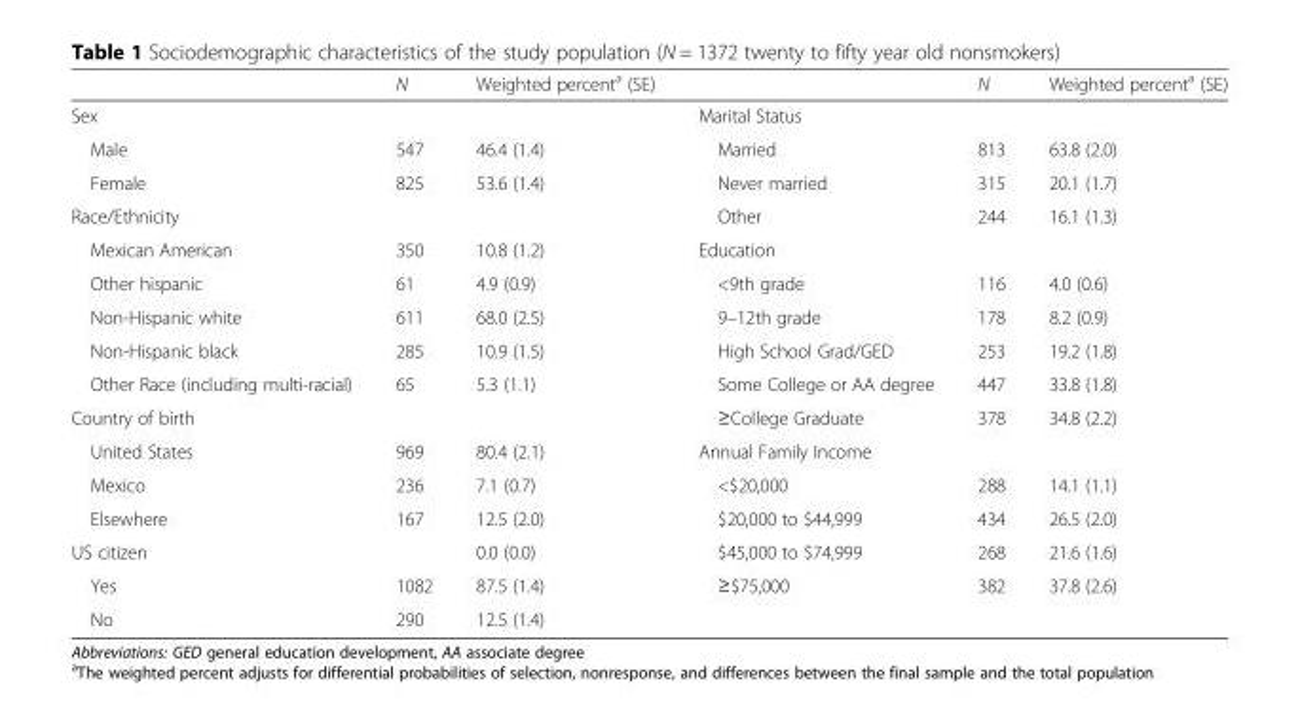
<table><thead><tr><td></td><td>N</td><td>Weighted percent<sup>a</sup> (SE)</td><td></td><td>N</td><td>Weighted percent<sup>a</sup> (SE)</td></tr></thead><tbody><tr><td>Sex</td><td></td><td></td><td>Marital Status</td><td></td><td></td></tr><tr><td>Male</td><td>547</td><td>46.4 (1.4)</td><td>Married</td><td>813</td><td>63.8 (2.0)</td></tr><tr><td>Female</td><td>825</td><td>53.6 (1.4)</td><td>Never married</td><td>315</td><td>20.1 (1.7)</td></tr><tr><td>Race/Ethnicity</td><td></td><td></td><td>Other</td><td>244</td><td>16.1 (1.3)</td></tr><tr><td>Mexican American</td><td>350</td><td>10.8 (1.2)</td><td>Education</td><td></td><td></td></tr><tr><td>Other hispanic</td><td>61</td><td>4.9 (0.9)</td><td>&lt;9th grade</td><td>116</td><td>4.0 (0.6)</td></tr><tr><td>Non-Hispanic white</td><td>611</td><td>68.0 (2.5)</td><td>9–12th grade</td><td>178</td><td>8.2 (0.9)</td></tr><tr><td>Non-Hispanic black</td><td>285</td><td>10.9 (1.5)</td><td>High School Grad/GED</td><td>253</td><td>19.2 (1.8)</td></tr><tr><td>Other Race (including multi-racial)</td><td>65</td><td>5.3 (1.1)</td><td>Some College or AA degree</td><td>447</td><td>33.8 (1.8)</td></tr><tr><td>Country of birth</td><td></td><td></td><td>≥College Graduate</td><td>378</td><td>34.8 (2.2)</td></tr><tr><td>United States</td><td>969</td><td>80.4 (2.1)</td><td>Annual Family Income</td><td></td><td></td></tr><tr><td>Mexico</td><td>236</td><td>7.1 (0.7)</td><td>&lt;$20,000</td><td>288</td><td>14.1 (1.1)</td></tr><tr><td>Elsewhere</td><td>167</td><td>12.5 (2.0)</td><td>$20,000 to $44,999</td><td>434</td><td>26.5 (2.0)</td></tr><tr><td>US citizen</td><td></td><td>0.0 (0.0)</td><td>$45,000 to $74,999</td><td>268</td><td>21.6 (1.6)</td></tr><tr><td>Yes</td><td>1082</td><td>87.5 (1.4)</td><td>≥$75,000</td><td>382</td><td>37.8 (2.6)</td></tr><tr><td>No</td><td>290</td><td>12.5 (1.4)</td><td></td><td></td><td></td></tr></tbody></table>